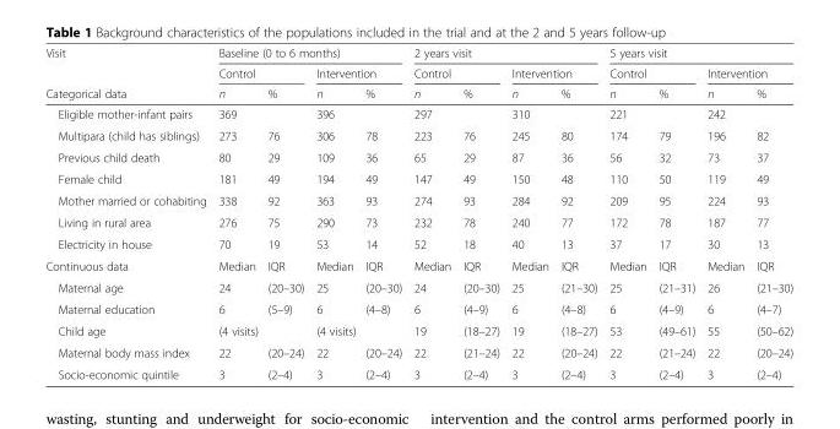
<table><thead><tr><td rowspan="3">Visit Categorical data</td><td colspan="4">Baseline (0 to 6 months)</td><td colspan="4">2 years visit</td><td colspan="4">5 years visit</td></tr><tr><td colspan="2">Control</td><td colspan="2">Intervention</td><td colspan="2">Control</td><td colspan="2">Intervention</td><td colspan="2">Control</td><td colspan="2">Intervention</td></tr><tr><td>n</td><td>%</td><td>n</td><td>%</td><td>n</td><td>%</td><td>n</td><td>%</td><td>n</td><td>%</td><td>n</td><td>%</td></tr></thead><tbody><tr><td>Eligible mother-infant pairs</td><td>369</td><td></td><td>396</td><td></td><td>297</td><td></td><td>310</td><td></td><td>221</td><td></td><td>242</td><td></td></tr><tr><td>Multipara (child has siblings)</td><td>273</td><td>76</td><td>306</td><td>78</td><td>223</td><td>76</td><td>245</td><td>80</td><td>174</td><td>79</td><td>196</td><td>82</td></tr><tr><td>Previous child death</td><td>80</td><td>29</td><td>109</td><td>36</td><td>65</td><td>29</td><td>87</td><td>36</td><td>56</td><td>32</td><td>73</td><td>37</td></tr><tr><td>Female child</td><td>181</td><td>49</td><td>194</td><td>49</td><td>147</td><td>49</td><td>150</td><td>48</td><td>110</td><td>50</td><td>119</td><td>49</td></tr><tr><td>Mother married or cohabiting</td><td>338</td><td>92</td><td>363</td><td>93</td><td>274</td><td>93</td><td>284</td><td>92</td><td>209</td><td>95</td><td>224</td><td>93</td></tr><tr><td>Living in rural area</td><td>276</td><td>75</td><td>290</td><td>73</td><td>232</td><td>78</td><td>240</td><td>77</td><td>172</td><td>78</td><td>187</td><td>77</td></tr><tr><td>Electricity in house</td><td>70</td><td>19</td><td>53</td><td>14</td><td>52</td><td>18</td><td>40</td><td>13</td><td>37</td><td>17</td><td>30</td><td>13</td></tr><tr><td>Continuous data</td><td>Median</td><td>IQR</td><td>Median</td><td>IQR</td><td>Median</td><td>IQR</td><td>Median</td><td>IQR</td><td>Median</td><td>IQR</td><td>Median</td><td>IQR</td></tr><tr><td>Maternal age</td><td>24</td><td>(20–30)</td><td>25</td><td>(20–30)</td><td>24</td><td>(20–30)</td><td>25</td><td>(21–30)</td><td>25</td><td>(21–31)</td><td>26</td><td>(21–30)</td></tr><tr><td>Maternal education</td><td>6</td><td>(5–9)</td><td>6</td><td>(4–8)</td><td>6</td><td>(4–9)</td><td>6</td><td>(4–8)</td><td>6</td><td>(4–9)</td><td>6</td><td>(4–7)</td></tr><tr><td>Child age</td><td colspan="2">(4 visits)</td><td colspan="2">(4 visits)</td><td>19</td><td>(18–27)</td><td>19</td><td>(18–27)</td><td>53</td><td>(49–61)</td><td>55</td><td>(50–62)</td></tr><tr><td>Maternal body mass index</td><td>22</td><td>(20–24)</td><td>22</td><td>(20–24)</td><td>22</td><td>(21–24)</td><td>22</td><td>(20–24)</td><td>22</td><td>(21–24)</td><td>22</td><td>(20–24)</td></tr><tr><td>Socio-economic quintile</td><td>3</td><td>(2–4)</td><td>3</td><td>(2–4)</td><td>3</td><td>(2–4)</td><td>3</td><td>(2–4)</td><td>3</td><td>(2–4)</td><td>3</td><td>(2–4)</td></tr></tbody></table>